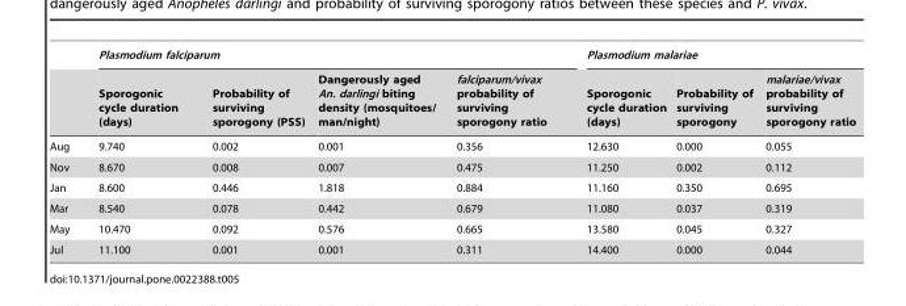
<table><thead><tr><td rowspan="2"></td><td colspan="4">Plasmodium falciparum</td><td colspan="3">Plasmodium malariae</td></tr><tr><td>Sporogonic cycle duration (days)</td><td>Probability of surviving sporogony (PSS)</td><td>Dangerously aged An. darlingi biting density (mosquitoes/ man/night)</td><td>falciparum/vivax probability of surviving sporogony ratio</td><td>Sporogonic cycle duration (days)</td><td>Probability of surviving sporogony</td><td>malariae/vivax probability of surviving sporogony ratio</td></tr></thead><tbody><tr><td>Aug</td><td>9.740</td><td>0.002</td><td>0.001</td><td>0.356</td><td>12.630</td><td>0.000</td><td>0.055</td></tr><tr><td>Nov</td><td>8.670</td><td>0.008</td><td>0.007</td><td>0.475</td><td>11.250</td><td>0.002</td><td>0.112</td></tr><tr><td>Jan</td><td>8.600</td><td>0.446</td><td>1.818</td><td>0.884</td><td>11.160</td><td>0.350</td><td>0.695</td></tr><tr><td>Mar</td><td>8.540</td><td>0.078</td><td>0.442</td><td>0.679</td><td>11.080</td><td>0.037</td><td>0.319</td></tr><tr><td>May</td><td>10.470</td><td>0.092</td><td>0.576</td><td>0.665</td><td>13.580</td><td>0.045</td><td>0.327</td></tr><tr><td>Jul</td><td>11.100</td><td>0.001</td><td>0.001</td><td>0.311</td><td>14.400</td><td>0.000</td><td>0.044</td></tr></tbody></table>